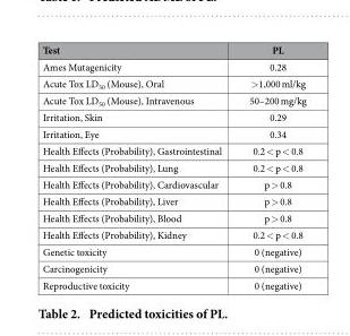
<table><thead><tr><td>Test</td><td>PL</td></tr></thead><tbody><tr><td>Ames Mutagenicity</td><td>0.28</td></tr><tr><td>Acute Tox LD50 (Mouse), Oral</td><td>&gt;1,000 ml/kg</td></tr><tr><td>Acute Tox LD50 (Mouse), Intravenous</td><td>50–200 mg/kg</td></tr><tr><td>Irritation, Skin</td><td>0.29</td></tr><tr><td>Irritation, Eye</td><td>0.34</td></tr><tr><td>Health Effects (Probability), Gastrointestinal</td><td>0.2 &lt; p &lt; 0.8</td></tr><tr><td>Health Effects (Probability), Lung</td><td>0.2 &lt; p &lt; 0.8</td></tr><tr><td>Health Effects (Probability), Cardiovascular</td><td>p &gt; 0.8</td></tr><tr><td>Health Effects (Probability), Liver</td><td>p &gt; 0.8</td></tr><tr><td>Health Effects (Probability), Blood</td><td>p &gt; 0.8</td></tr><tr><td>Health Effects (Probability), Kidney</td><td>0.2 &lt; p &lt; 0.8</td></tr><tr><td>Genetic toxicity</td><td>0 (negative)</td></tr><tr><td>Carcinogenicity</td><td>0 (negative)</td></tr><tr><td>Reproductive toxicity</td><td>0 (negative)</td></tr></tbody></table>